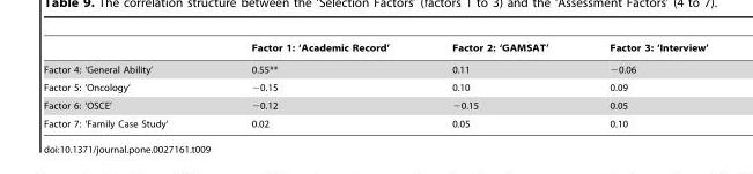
<table><thead><tr><td></td><td>Factor 1: ‘Academic Record’</td><td>Factor 2: ‘GAMSAT’</td><td>Factor 3: ‘Interview’</td></tr></thead><tbody><tr><td>Factor 4: ‘General Ability’</td><td>0.55**</td><td>0.11</td><td>−0.06</td></tr><tr><td>Factor 5: ‘Oncology’</td><td>−0.15</td><td>0.10</td><td>0.09</td></tr><tr><td>Factor 6: ‘OSCE’</td><td>−0.12</td><td>−0.15</td><td>0.05</td></tr><tr><td>Factor 7: ‘Family Case Study’</td><td>0.02</td><td>0.05</td><td>0.10</td></tr></tbody></table>